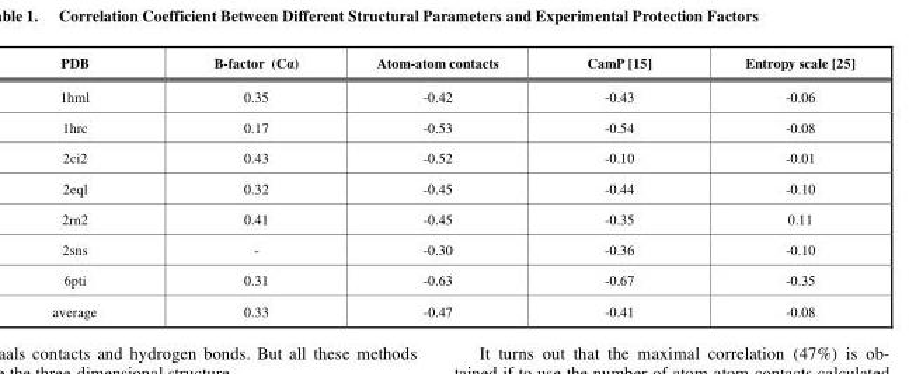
<table><tbody><tr><td>PDB</td><td>B-factor (Cα)</td><td>Atom-atom contacts</td><td>CamP [15]</td><td>Entropy scale [25]</td></tr><tr><td>1hml</td><td>0.35</td><td>-0.42</td><td>-0.43</td><td>-0.06</td></tr><tr><td>1hrc</td><td>0.17</td><td>-0.53</td><td>-0.54</td><td>-0.08</td></tr><tr><td>2ci2</td><td>0.43</td><td>-0.52</td><td>-0.10</td><td>-0.01</td></tr><tr><td>2eql</td><td>0.32</td><td>-0.45</td><td>-0.44</td><td>-0.10</td></tr><tr><td>2rn2</td><td>0.41</td><td>-0.45</td><td>-0.35</td><td>0.11</td></tr><tr><td>2sns</td><td>-</td><td>-0.30</td><td>-0.36</td><td>-0.10</td></tr><tr><td>6pti</td><td>0.31</td><td>-0.63</td><td>-0.67</td><td>-0.35</td></tr><tr><td>average</td><td>0.33</td><td>-0.47</td><td>-0.41</td><td>-0.08</td></tr></tbody></table>